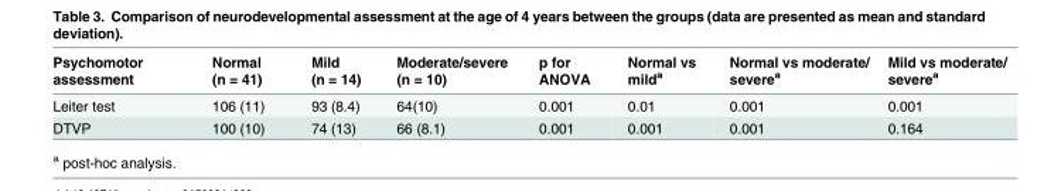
<table><thead><tr><td>Psychomotor assessment</td><td>Normal (n = 41)</td><td>Mild (n = 14)</td><td>Moderate/severe (n = 10)</td><td>p for ANOVA</td><td>Normal vs mild<sup>a</sup></td><td>Normal vs moderate/ severe<sup>a</sup></td><td>Mild vs moderate/ severe<sup>a</sup></td></tr></thead><tbody><tr><td>Leiter test</td><td>106 (11)</td><td>93 (8.4)</td><td>64(10)</td><td>0.001</td><td>0.01</td><td>0.001</td><td>0.001</td></tr><tr><td>DTVP</td><td>100 (10)</td><td>74 (13)</td><td>66 (8.1)</td><td>0.001</td><td>0.001</td><td>0.001</td><td>0.164</td></tr></tbody></table>